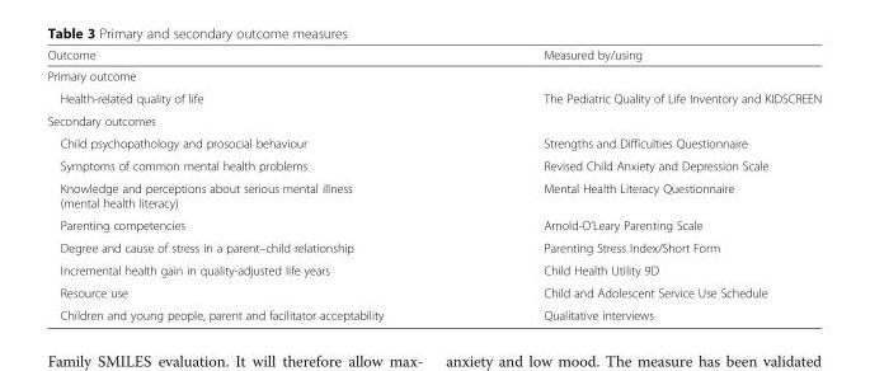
<table><thead><tr><td>Outcome</td><td>Measured by/using</td></tr></thead><tbody><tr><td colspan="2">Primary outcome</td></tr><tr><td>Health-related quality of life</td><td>The Pediatric Quality of Life Inventory and KIDSCREEN</td></tr><tr><td colspan="2">Secondary outcomes</td></tr><tr><td>Child psychopathology and prosocial behaviour</td><td>Strengths and Difficulties Questionnaire</td></tr><tr><td>Symptoms of common mental health problems</td><td>Revised Child Anxiety and Depression Scale</td></tr><tr><td>Knowledge and perceptions about serious mental illness (mental health literacy)</td><td>Mental Health Literacy Questionnaire</td></tr><tr><td>Parenting competencies</td><td>Arnold-O’Leary Parenting Scale</td></tr><tr><td>Degree and cause of stress in a parent–child relationship</td><td>Parenting Stress Index/Short Form</td></tr><tr><td>Incremental health gain in quality-adjusted life years</td><td>Child Health Utility 9D</td></tr><tr><td>Resource use</td><td>Child and Adolescent Service Use Schedule</td></tr><tr><td>Children and young people, parent and facilitator acceptability</td><td>Qualitative interviews</td></tr></tbody></table>